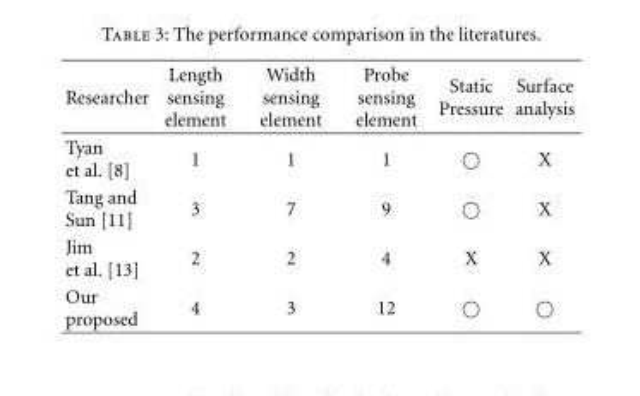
<table><thead><tr><td>Researcher</td><td>Length sensing element</td><td>Width sensing element</td><td>Probe sensing element</td><td>Static Pressure</td><td>Surface analysis</td></tr></thead><tbody><tr><td>Tyan et al. [8]</td><td>1</td><td>1</td><td>1</td><td>⃝</td><td>X</td></tr><tr><td>Tang and Sun [11]</td><td>3</td><td>7</td><td>9</td><td>⃝</td><td>X</td></tr><tr><td>Jim et al. [13]</td><td>2</td><td>2</td><td>4</td><td>X</td><td>X</td></tr><tr><td>Our proposed</td><td>4</td><td>3</td><td>12</td><td>⃝</td><td>⃝</td></tr></tbody></table>